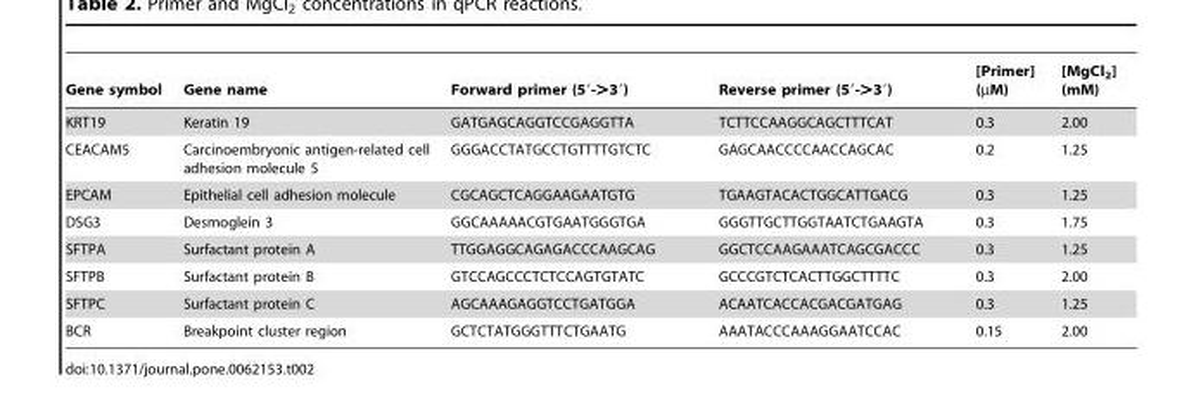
<table><thead><tr><td>Gene symbol</td><td>Gene name</td><td>Forward primer (5′-&gt;3′)</td><td>Reverse primer (5′-&gt;3′)</td><td>[Primer] (µM)</td><td>[MgCl<sub>2</sub>] (mM)</td></tr></thead><tbody><tr><td>KRT19</td><td>Keratin 19</td><td>GATGAGCAGGTCCGAGGTTA</td><td>TCTTCCAAGGCAGCTTTCAT</td><td>0.3</td><td>2.00</td></tr><tr><td>CEACAM5</td><td>Carcinoembryonic antigen-related cell adhesion molecule 5</td><td>GGGACCTATGCCTGTTTTGTCTC</td><td>GAGCAACCCCAACCAGCAC</td><td>0.2</td><td>1.25</td></tr><tr><td>EPCAM</td><td>Epithelial cell adhesion molecule</td><td>CGCAGCTCAGGAAGAATGTG</td><td>TGAAGTACACTGGCATTGACG</td><td>0.3</td><td>1.25</td></tr><tr><td>DSG3</td><td>Desmoglein 3</td><td>GGCAAAAACGTGAATGGGTGA</td><td>GGGTTGCTTGGTAATCTGAAGTA</td><td>0.3</td><td>1.75</td></tr><tr><td>SFTPA</td><td>Surfactant protein A</td><td>TTGGAGGCAGAGACCCAAGCAG</td><td>GGCTCCAAGAAATCAGCGACCC</td><td>0.3</td><td>1.25</td></tr><tr><td>SFTPB</td><td>Surfactant protein B</td><td>GTCCAGCCCTCTCCAGTGTATC</td><td>GCCCGTCTCACTTGGCTTTTC</td><td>0.3</td><td>2.00</td></tr><tr><td>SFTPC</td><td>Surfactant protein C</td><td>AGCAAAGAGGTCCTGATGGA</td><td>ACAATCACCACGACGATGAG</td><td>0.3</td><td>1.25</td></tr><tr><td>BCR</td><td>Breakpoint cluster region</td><td>GCTCTATGGGTTTCTGAATG</td><td>AAATACCCAAAGGAATCCAC</td><td>0.15</td><td>2.00</td></tr></tbody></table>